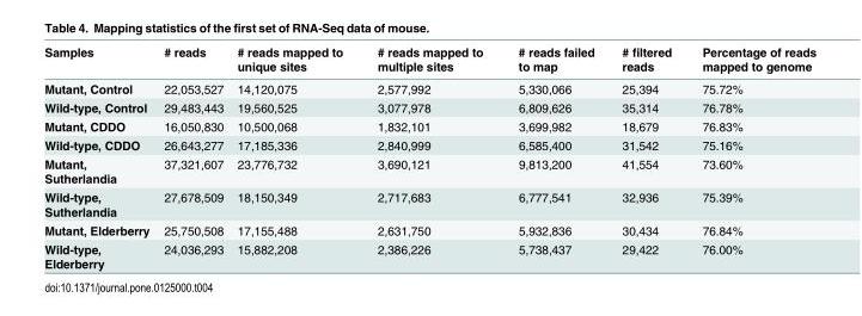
<table><thead><tr><td>Samples</td><td># reads</td><td># reads mapped to unique sites</td><td># reads mapped to multiple sites</td><td># reads failed to map</td><td># filtered reads</td><td>Percentage of reads mapped to genome</td></tr></thead><tbody><tr><td>Mutant, Control</td><td>22,053,527</td><td>14,120,075</td><td>2,577,992</td><td>5,330,066</td><td>25,394</td><td>75.72%</td></tr><tr><td>Wild-type, Control</td><td>29,483,443</td><td>19,560,525</td><td>3,077,978</td><td>6,809,626</td><td>35,314</td><td>76.78%</td></tr><tr><td>Mutant, CDDO</td><td>16,050,830</td><td>10,500,068</td><td>1,832,101</td><td>3,699,982</td><td>18,679</td><td>76.83%</td></tr><tr><td>Wild-type, CDDO</td><td>26,643,277</td><td>17,185,336</td><td>2,840,999</td><td>6,585,400</td><td>31,542</td><td>75.16%</td></tr><tr><td>Mutant, Sutherlandia</td><td>37,321,607</td><td>23,776,732</td><td>3,690,121</td><td>9,813,200</td><td>41,554</td><td>73.60%</td></tr><tr><td>Wild-type, Sutherlandia</td><td>27,678,509</td><td>18,150,349</td><td>2,717,683</td><td>6,777,541</td><td>32,936</td><td>75.39%</td></tr><tr><td>Mutant, Elderberry</td><td>25,750,508</td><td>17,155,488</td><td>2,631,750</td><td>5,932,836</td><td>30,434</td><td>76.84%</td></tr><tr><td>Wild-type, Elderberry</td><td>24,036,293</td><td>15,882,208</td><td>2,386,226</td><td>5,738,437</td><td>29,422</td><td>76.00%</td></tr></tbody></table>